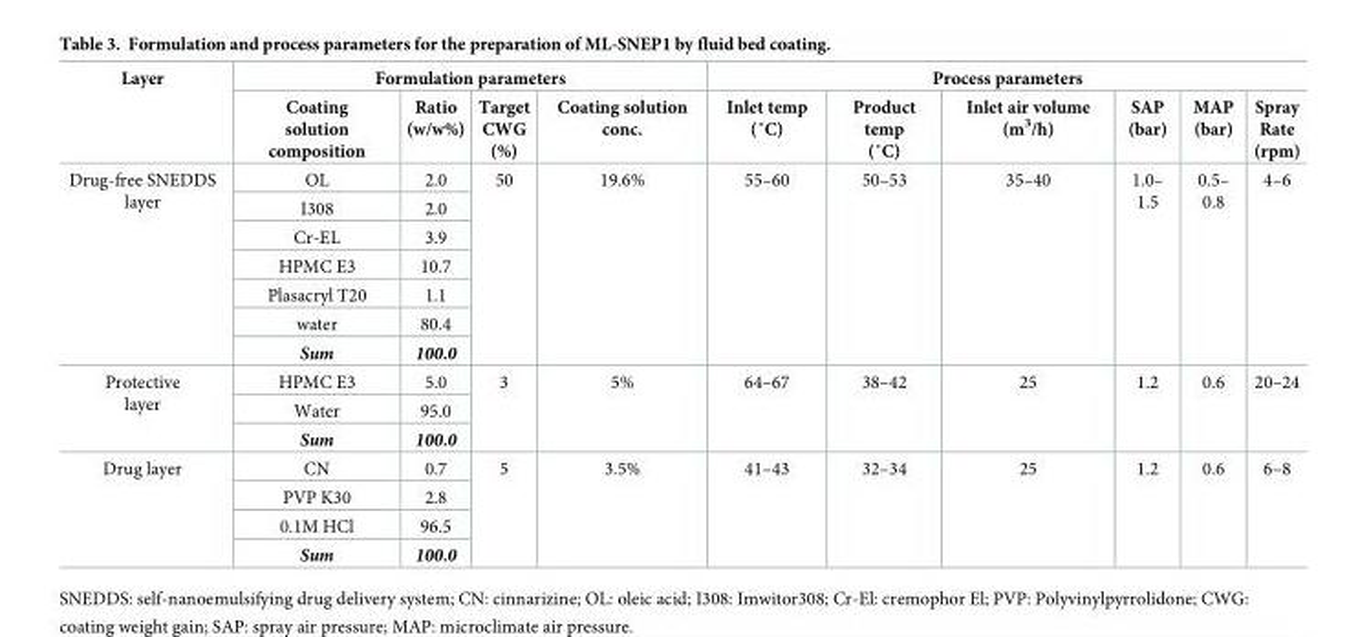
<table><thead><tr><td rowspan="2">Layer</td><td colspan="4">Formulation parameters</td><td colspan="6">Process parameters</td></tr><tr><td>Coating solution composition</td><td>Ratio (w/w%)</td><td>Target CWG (%)</td><td>Coating solution conc.</td><td>Inlet temp (˚C)</td><td>Product temp (˚C)</td><td>Inlet air volume (m<sup>3</sup>/h)</td><td>SAP (bar)</td><td>MAP (bar)</td><td>Spray Rate (rpm)</td></tr></thead><tbody><tr><td rowspan="7">Drug-free SNEDDS layer</td><td>OL</td><td>2.0</td><td rowspan="7">50</td><td rowspan="7">19.6%</td><td rowspan="7">55–60</td><td rowspan="7">50–53</td><td rowspan="7">35–40</td><td rowspan="7">1.0– 1.5</td><td rowspan="7">0.5– 0.8</td><td rowspan="7">4–6</td></tr><tr><td>I308</td><td>2.0</td></tr><tr><td>Cr-EL</td><td>3.9</td></tr><tr><td>HPMC E3</td><td>10.7</td></tr><tr><td>Plasacryl T20</td><td>1.1</td></tr><tr><td>water</td><td>80.4</td></tr><tr><td>Sum</td><td>100.0</td></tr><tr><td rowspan="3">Protective layer</td><td>HPMC E3</td><td>5.0</td><td rowspan="3">3</td><td rowspan="3">5%</td><td rowspan="3">64–67</td><td rowspan="3">38–42</td><td rowspan="3">25</td><td rowspan="3">1.2</td><td rowspan="3">0.6</td><td rowspan="3">20–24</td></tr><tr><td>Water</td><td>95.0</td></tr><tr><td>Sum</td><td>100.0</td></tr><tr><td rowspan="4">Drug layer</td><td>CN</td><td>0.7</td><td rowspan="4">5</td><td rowspan="4">3.5%</td><td rowspan="4">41–43</td><td rowspan="4">32–34</td><td rowspan="4">25</td><td rowspan="4">1.2</td><td rowspan="4">0.6</td><td rowspan="4">6–8</td></tr><tr><td>PVP K30</td><td>2.8</td></tr><tr><td>0.1M HCl</td><td>96.5</td></tr><tr><td>Sum</td><td>100.0</td></tr></tbody></table>